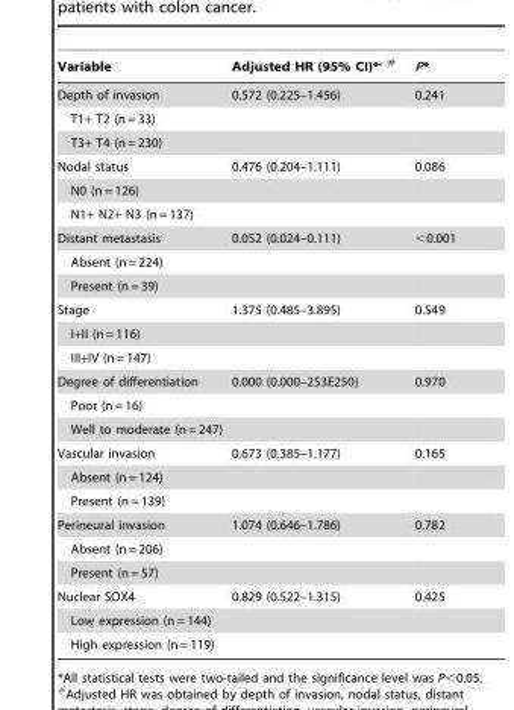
<table><thead><tr><td>Variable</td><td>Adjusted HR (95% CI)*<sup>,</sup> #</td><td>P*</td></tr></thead><tbody><tr><td>Depth of invasion</td><td>0.572 (0.225–1.456)</td><td>0.241</td></tr><tr><td colspan="3">T1+ T2 (n = 33)</td></tr><tr><td colspan="3">T3+ T4 (n = 230)</td></tr><tr><td>Nodal status</td><td>0.476 (0.204–1.111)</td><td>0.086</td></tr><tr><td colspan="3">N0 (n = 126)</td></tr><tr><td colspan="3">N1+ N2+ N3 (n = 137)</td></tr><tr><td>Distant metastasis</td><td>0.052 (0.024–0.111)</td><td>&lt;0.001</td></tr><tr><td colspan="3">Absent (n = 224)</td></tr><tr><td colspan="3">Present (n = 39)</td></tr><tr><td>Stage</td><td>1.375 (0.485–3.895)</td><td>0.549</td></tr><tr><td colspan="3">I+II (n = 116)</td></tr><tr><td colspan="3">III+IV (n = 147)</td></tr><tr><td>Degree of differentiation</td><td>0.000 (0.000–253E250)</td><td>0.970</td></tr><tr><td colspan="3">Poor (n = 16)</td></tr><tr><td colspan="3">Well to moderate (n = 247)</td></tr><tr><td>Vascular invasion</td><td>0.673 (0.385–1.177)</td><td>0.165</td></tr><tr><td colspan="3">Absent (n = 124)</td></tr><tr><td colspan="3">Present (n = 139)</td></tr><tr><td>Perineural invasion</td><td>1.074 (0.646–1.786)</td><td>0.782</td></tr><tr><td colspan="3">Absent (n = 206)</td></tr><tr><td colspan="3">Present (n = 57)</td></tr><tr><td>Nuclear SOX4</td><td>0.829 (0.522–1.315)</td><td>0.425</td></tr><tr><td colspan="3">Low expression (n = 144)</td></tr><tr><td>High expression (n = 119)</td><td></td><td></td></tr></tbody></table>